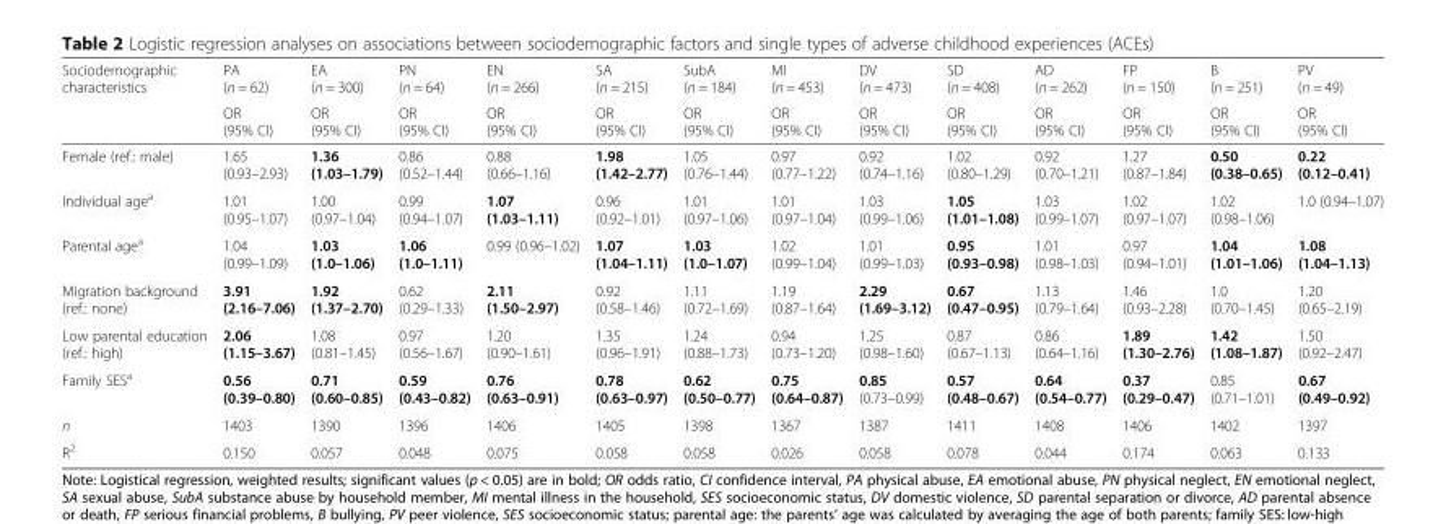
<table><thead><tr><td rowspan="2">Sociodemographic characteristics</td><td rowspan="2">PA (n = 62) OR (95% CI)</td><td rowspan="2">EA (n = 300) OR (95% CI)</td><td rowspan="2">PN (n = 64) OR (95% CI)</td><td rowspan="2">EN (n = 266) OR (95% CI)</td><td rowspan="2">SA (n = 215) OR (95% CI)</td><td rowspan="2">SubA (n = 184) OR (95% CI)</td><td rowspan="2">MI (n = 453) OR (95% CI)</td><td rowspan="2">DV (n = 473) OR (95% CI)</td><td rowspan="2">SD (n = 408) OR (95% CI)</td><td rowspan="2">AD (n = 262) OR (95% CI)</td><td rowspan="2">FP (n = 150) OR (95% CI)</td><td rowspan="2">B (n = 251) OR (95% CI)</td><td rowspan="2">PV (n = 49) OR (95% CI)</td></tr><tr></tr></thead><tbody><tr><td>Female (ref.: male)</td><td>1.65 (0.93–2.93)</td><td>1.36 (1.03–1.79)</td><td>0.86 (0.52–1.44)</td><td>0.88 (0.66–1.16)</td><td>1.98 (1.42–2.77)</td><td>1.05 (0.76–1.44)</td><td>0.97 (0.77–1.22)</td><td>0.92 (0.74–1.16)</td><td>1.02 (0.80–1.29)</td><td>0.92 (0.70–1.21)</td><td>1.27 (0.87–1.84)</td><td>0.50 (0.38–0.65)</td><td>0.22 (0.12–0.41)</td></tr><tr><td>Individual age<sup>a</sup></td><td>1.01 (0.95–1.07)</td><td>1.00 (0.97–1.04)</td><td>0.99 (0.94–1.07)</td><td>1.07 (1.03–1.11)</td><td>0.96 (0.92–1.01)</td><td>1.01 (0.97–1.06)</td><td>1.01 (0.97–1.04)</td><td>1.03 (0.99–1.06)</td><td>1.05 (1.01–1.08)</td><td>1.03 (0.99–1.07)</td><td>1.02 (0.97–1.07)</td><td>1.02 (0.98–1.06)</td><td>1.0 (0.94–1.07)</td></tr><tr><td>Parental age<sup>a</sup></td><td>1.04 (0.99–1.09)</td><td>1.03 (1.0–1.06)</td><td>1.06 (1.0–1.11)</td><td>0.99 (0.96–1.02)</td><td>1.07 (1.04–1.11)</td><td>1.03 (1.0–1.07)</td><td>1.02 (0.99–1.04)</td><td>1.01 (0.99–1.03)</td><td>0.95 (0.93–0.98)</td><td>1.01 (0.98–1.03)</td><td>0.97 (0.94–1.01)</td><td>1.04 (1.01–1.06)</td><td>1.08 (1.04–1.13)</td></tr><tr><td>Migration background (ref.: none)</td><td>3.91 (2.16–7.06)</td><td>1.92 (1.37–2.70)</td><td>0.62 (0.29–1.33)</td><td>2.11 (1.50–2.97)</td><td>0.92 (0.58–1.46)</td><td>1.11 (0.72–1.69)</td><td>1.19 (0.87–1.64)</td><td>2.29 (1.69–3.12)</td><td>0.67 (0.47–0.95)</td><td>1.13 (0.79–1.64)</td><td>1.46 (0.93–2.28)</td><td>1.0 (0.70–1.45)</td><td>1.20 (0.65–2.19)</td></tr><tr><td>Low parental education (ref.: high)</td><td>2.06 (1.15–3.67)</td><td>1.08 (0.81–1.45)</td><td>0.97 (0.56–1.67)</td><td>1.20 (0.90–1.61)</td><td>1.35 (0.96–1.91)</td><td>1.24 (0.88–1.73)</td><td>0.94 (0.73–1.20)</td><td>1.25 (0.98–1.60)</td><td>0.87 (0.67–1.13)</td><td>0.86 (0.64–1.16)</td><td>1.89 (1.30–2.76)</td><td>1.42 (1.08–1.87)</td><td>1.50 (0.92–2.47)</td></tr><tr><td>Family SES<sup>a</sup></td><td>0.56 (0.39–0.80)</td><td>0.71 (0.60–0.85)</td><td>0.59 (0.43–0.82)</td><td>0.76 (0.63–0.91)</td><td>0.78 (0.63–0.97)</td><td>0.62 (0.50–0.77)</td><td>0.75 (0.64–0.87)</td><td>0.85 (0.73–0.99)</td><td>0.57 (0.48–0.67)</td><td>0.64 (0.54–0.77)</td><td>0.37 (0.29–0.47)</td><td>0.85 (0.71–1.01)</td><td>0.67 (0.49–0.92)</td></tr><tr><td>n</td><td>1403</td><td>1390</td><td>1396</td><td>1406</td><td>1405</td><td>1398</td><td>1367</td><td>1387</td><td>1411</td><td>1408</td><td>1406</td><td>1402</td><td>1397</td></tr><tr><td>R<sup>2</sup></td><td>0.150</td><td>0.057</td><td>0.048</td><td>0.075</td><td>0.058</td><td>0.058</td><td>0.026</td><td>0.058</td><td>0.078</td><td>0.044</td><td>0.174</td><td>0.063</td><td>0.133</td></tr></tbody></table>